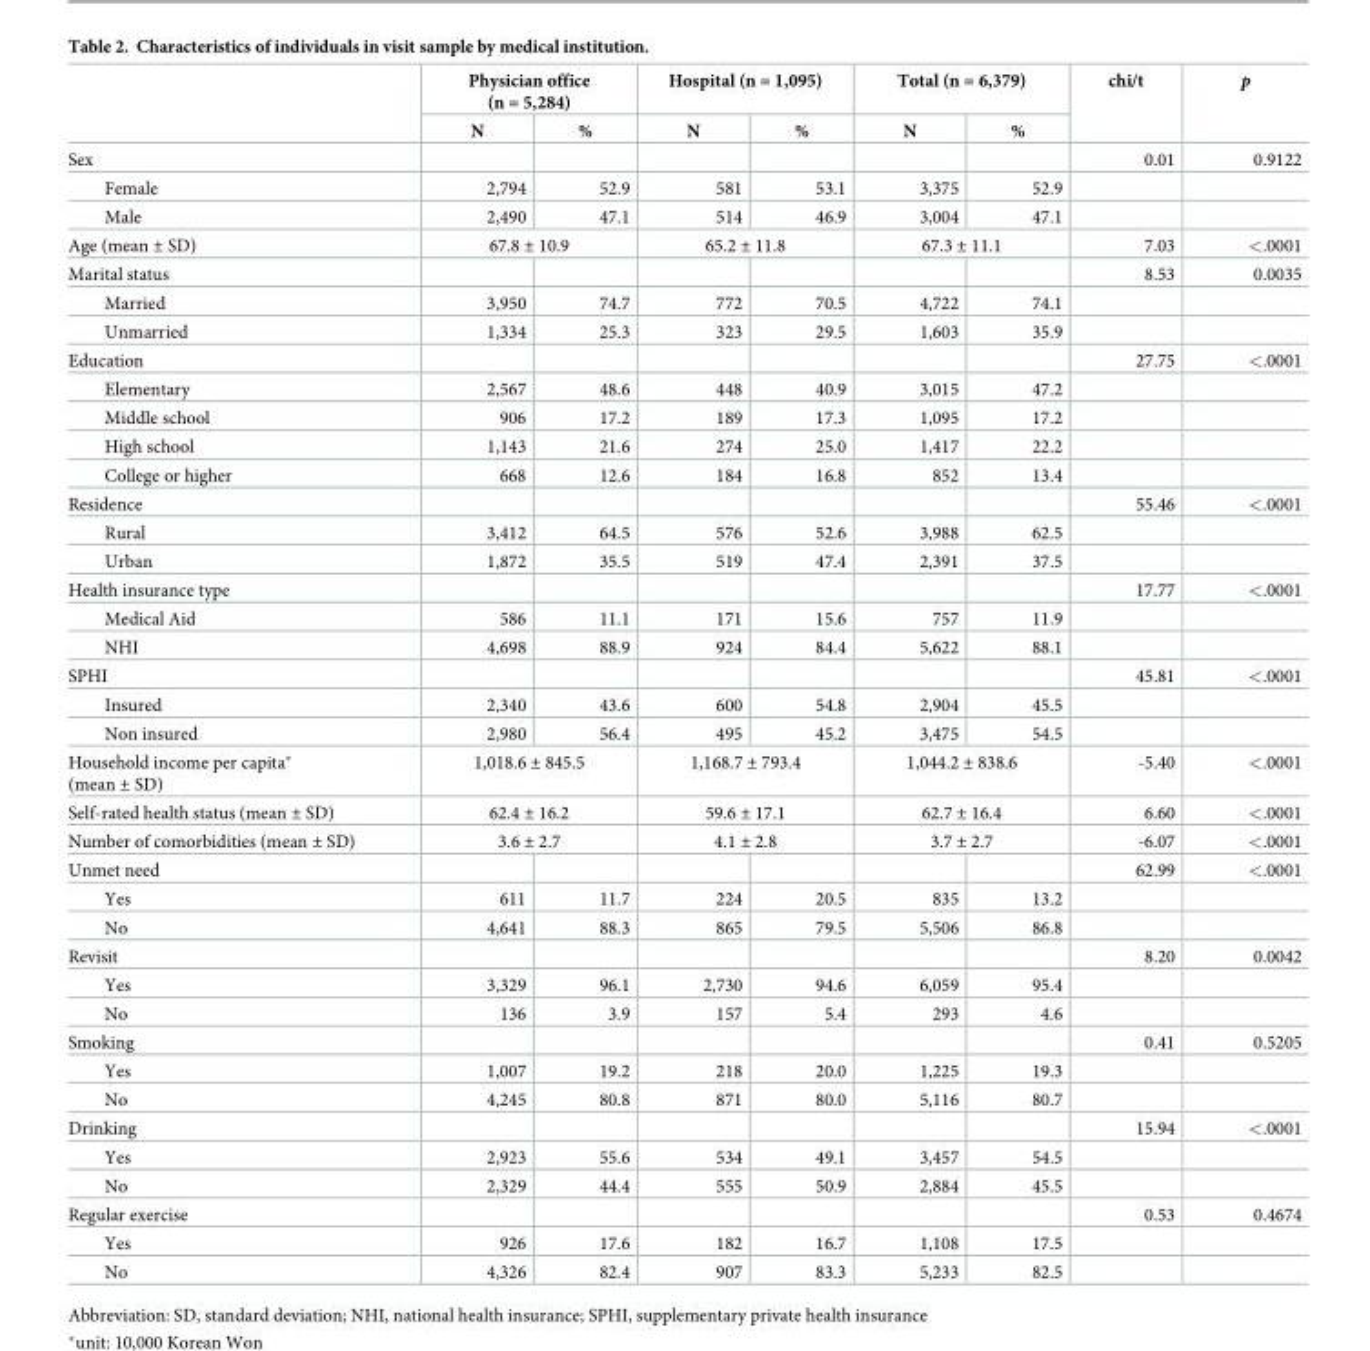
<table><thead><tr><td rowspan="2"></td><td colspan="2">Physician office (n = 5,284)</td><td colspan="2">Hospital (n = 1,095)</td><td colspan="2">Total (n = 6,379)</td><td rowspan="2">chi/t</td><td rowspan="2">p</td></tr><tr><td>N</td><td>%</td><td>N</td><td>%</td><td>N</td><td>%</td></tr></thead><tbody><tr><td>Sex</td><td></td><td></td><td></td><td></td><td></td><td></td><td>0.01</td><td>0.9122</td></tr><tr><td>Female</td><td>2,794</td><td>52.9</td><td>581</td><td>53.1</td><td>3,375</td><td>52.9</td><td></td><td></td></tr><tr><td>Male</td><td>2,490</td><td>47.1</td><td>514</td><td>46.9</td><td>3,004</td><td>47.1</td><td></td><td></td></tr><tr><td>Age (mean ± SD)</td><td colspan="2">67.8 ± 10.9</td><td colspan="2">65.2 ± 11.8</td><td colspan="2">67.3 ± 11.1</td><td>7.03</td><td>&lt;.0001</td></tr><tr><td>Marital status</td><td></td><td></td><td></td><td></td><td></td><td></td><td>8.53</td><td>0.0035</td></tr><tr><td>Married</td><td>3,950</td><td>74.7</td><td>772</td><td>70.5</td><td>4,722</td><td>74.1</td><td></td><td></td></tr><tr><td>Unmarried</td><td>1,334</td><td>25.3</td><td>323</td><td>29.5</td><td>1,603</td><td>35.9</td><td></td><td></td></tr><tr><td>Education</td><td></td><td></td><td></td><td></td><td></td><td></td><td>27.75</td><td>&lt;.0001</td></tr><tr><td>Elementary</td><td>2,567</td><td>48.6</td><td>448</td><td>40.9</td><td>3,015</td><td>47.2</td><td></td><td></td></tr><tr><td>Middle school</td><td>906</td><td>17.2</td><td>189</td><td>17.3</td><td>1,095</td><td>17.2</td><td></td><td></td></tr><tr><td>High school</td><td>1,143</td><td>21.6</td><td>274</td><td>25.0</td><td>1,417</td><td>22.2</td><td></td><td></td></tr><tr><td>College or higher</td><td>668</td><td>12.6</td><td>184</td><td>16.8</td><td>852</td><td>13.4</td><td></td><td></td></tr><tr><td>Residence</td><td></td><td></td><td></td><td></td><td></td><td></td><td>55.46</td><td>&lt;.0001</td></tr><tr><td>Rural</td><td>3,412</td><td>64.5</td><td>576</td><td>52.6</td><td>3,988</td><td>62.5</td><td></td><td></td></tr><tr><td>Urban</td><td>1,872</td><td>35.5</td><td>519</td><td>47.4</td><td>2,391</td><td>37.5</td><td></td><td></td></tr><tr><td>Health insurance type</td><td></td><td></td><td></td><td></td><td></td><td></td><td>17.77</td><td>&lt;.0001</td></tr><tr><td>Medical Aid</td><td>586</td><td>11.1</td><td>171</td><td>15.6</td><td>757</td><td>11.9</td><td></td><td></td></tr><tr><td>NHI</td><td>4,698</td><td>88.9</td><td>924</td><td>84.4</td><td>5,622</td><td>88.1</td><td></td><td></td></tr><tr><td>SPHI</td><td></td><td></td><td></td><td></td><td></td><td></td><td>45.81</td><td>&lt;.0001</td></tr><tr><td>Insured</td><td>2,340</td><td>43.6</td><td>600</td><td>54.8</td><td>2,904</td><td>45.5</td><td></td><td></td></tr><tr><td>Non insured</td><td>2,980</td><td>56.4</td><td>495</td><td>45.2</td><td>3,475</td><td>54.5</td><td></td><td></td></tr><tr><td>Household income per capita* (mean ± SD)</td><td colspan="2">1,018.6 ± 845.5</td><td colspan="2">1,168.7 ± 793.4</td><td colspan="2">1,044.2 ± 838.6</td><td>-5.40</td><td>&lt;.0001</td></tr><tr><td>Self-rated health status (mean ± SD)</td><td colspan="2">62.4 ± 16.2</td><td colspan="2">59.6 ± 17.1</td><td colspan="2">62.7 ± 16.4</td><td>6.60</td><td>&lt;.0001</td></tr><tr><td>Number of comorbidities (mean ± SD)</td><td colspan="2">3.6 ± 2.7</td><td colspan="2">4.1 ± 2.8</td><td colspan="2">3.7 ± 2.7</td><td>-6.07</td><td>&lt;.0001</td></tr><tr><td>Unmet need</td><td></td><td></td><td></td><td></td><td></td><td></td><td>62.99</td><td>&lt;.0001</td></tr><tr><td>Yes</td><td>611</td><td>11.7</td><td>224</td><td>20.5</td><td>835</td><td>13.2</td><td></td><td></td></tr><tr><td>No</td><td>4,641</td><td>88.3</td><td>865</td><td>79.5</td><td>5,506</td><td>86.8</td><td></td><td></td></tr><tr><td>Revisit</td><td></td><td></td><td></td><td></td><td></td><td></td><td>8.20</td><td>0.0042</td></tr><tr><td>Yes</td><td>3,329</td><td>96.1</td><td>2,730</td><td>94.6</td><td>6,059</td><td>95.4</td><td></td><td></td></tr><tr><td>No</td><td>136</td><td>3.9</td><td>157</td><td>5.4</td><td>293</td><td>4.6</td><td></td><td></td></tr><tr><td>Smoking</td><td></td><td></td><td></td><td></td><td></td><td></td><td>0.41</td><td>0.5205</td></tr><tr><td>Yes</td><td>1,007</td><td>19.2</td><td>218</td><td>20.0</td><td>1,225</td><td>19.3</td><td></td><td></td></tr><tr><td>No</td><td>4,245</td><td>80.8</td><td>871</td><td>80.0</td><td>5,116</td><td>80.7</td><td></td><td></td></tr><tr><td>Drinking</td><td></td><td></td><td></td><td></td><td></td><td></td><td>15.94</td><td>&lt;.0001</td></tr><tr><td>Yes</td><td>2,923</td><td>55.6</td><td>534</td><td>49.1</td><td>3,457</td><td>54.5</td><td></td><td></td></tr><tr><td>No</td><td>2,329</td><td>44.4</td><td>555</td><td>50.9</td><td>2,884</td><td>45.5</td><td></td><td></td></tr><tr><td>Regular exercise</td><td></td><td></td><td></td><td></td><td></td><td></td><td>0.53</td><td>0.4674</td></tr><tr><td>Yes</td><td>926</td><td>17.6</td><td>182</td><td>16.7</td><td>1,108</td><td>17.5</td><td></td><td></td></tr><tr><td>No</td><td>4,326</td><td>82.4</td><td>907</td><td>83.3</td><td>5,233</td><td>82.5</td><td></td><td></td></tr></tbody></table>